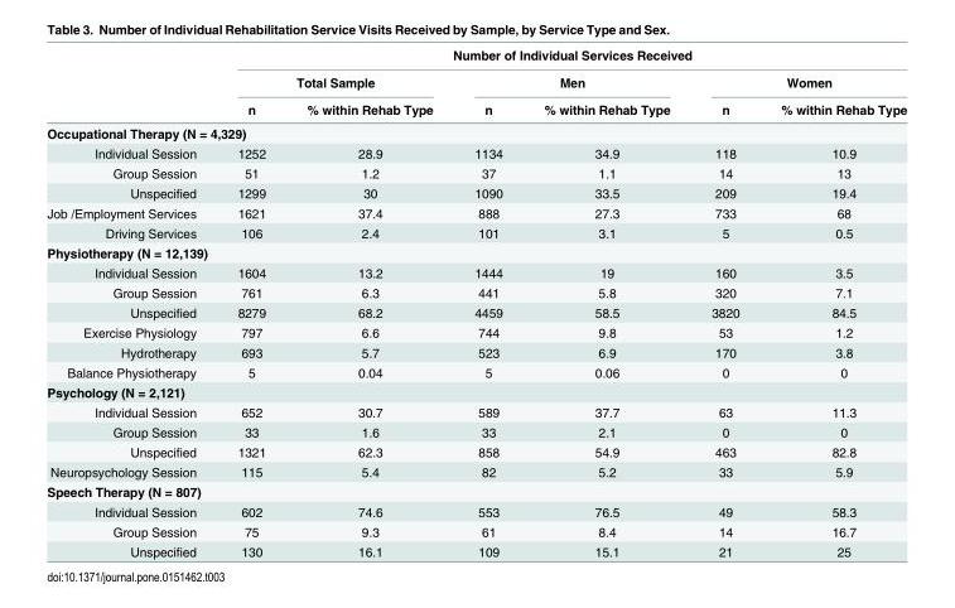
<table><thead><tr><td rowspan="3"></td><td colspan="6">Number of Individual Services Received</td></tr><tr><td colspan="2">Total Sample</td><td colspan="2">Men</td><td colspan="2">Women</td></tr><tr><td>n</td><td>% within Rehab Type</td><td>n</td><td>% within Rehab Type</td><td>n</td><td>% within Rehab Type</td></tr></thead><tbody><tr><td colspan="7">Occupational Therapy (N = 4,329)</td></tr><tr><td>Individual Session</td><td>1252</td><td>28.9</td><td>1134</td><td>34.9</td><td>118</td><td>10.9</td></tr><tr><td>Group Session</td><td>51</td><td>1.2</td><td>37</td><td>1.1</td><td>14</td><td>13</td></tr><tr><td>Unspecified</td><td>1299</td><td>30</td><td>1090</td><td>33.5</td><td>209</td><td>19.4</td></tr><tr><td>Job /Employment Services</td><td>1621</td><td>37.4</td><td>888</td><td>27.3</td><td>733</td><td>68</td></tr><tr><td>Driving Services</td><td>106</td><td>2.4</td><td>101</td><td>3.1</td><td>5</td><td>0.5</td></tr><tr><td colspan="7">Physiotherapy (N = 12,139)</td></tr><tr><td>Individual Session</td><td>1604</td><td>13.2</td><td>1444</td><td>19</td><td>160</td><td>3.5</td></tr><tr><td>Group Session</td><td>761</td><td>6.3</td><td>441</td><td>5.8</td><td>320</td><td>7.1</td></tr><tr><td>Unspecified</td><td>8279</td><td>68.2</td><td>4459</td><td>58.5</td><td>3820</td><td>84.5</td></tr><tr><td>Exercise Physiology</td><td>797</td><td>6.6</td><td>744</td><td>9.8</td><td>53</td><td>1.2</td></tr><tr><td>Hydrotherapy</td><td>693</td><td>5.7</td><td>523</td><td>6.9</td><td>170</td><td>3.8</td></tr><tr><td>Balance Physiotherapy</td><td>5</td><td>0.04</td><td>5</td><td>0.06</td><td>0</td><td>0</td></tr><tr><td colspan="7">Psychology (N = 2,121)</td></tr><tr><td>Individual Session</td><td>652</td><td>30.7</td><td>589</td><td>37.7</td><td>63</td><td>11.3</td></tr><tr><td>Group Session</td><td>33</td><td>1.6</td><td>33</td><td>2.1</td><td>0</td><td>0</td></tr><tr><td>Unspecified</td><td>1321</td><td>62.3</td><td>858</td><td>54.9</td><td>463</td><td>82.8</td></tr><tr><td>Neuropsychology Session</td><td>115</td><td>5.4</td><td>82</td><td>5.2</td><td>33</td><td>5.9</td></tr><tr><td colspan="7">Speech Therapy (N = 807)</td></tr><tr><td>Individual Session</td><td>602</td><td>74.6</td><td>553</td><td>76.5</td><td>49</td><td>58.3</td></tr><tr><td>Group Session</td><td>75</td><td>9.3</td><td>61</td><td>8.4</td><td>14</td><td>16.7</td></tr><tr><td>Unspecified</td><td>130</td><td>16.1</td><td>109</td><td>15.1</td><td>21</td><td>25</td></tr></tbody></table>